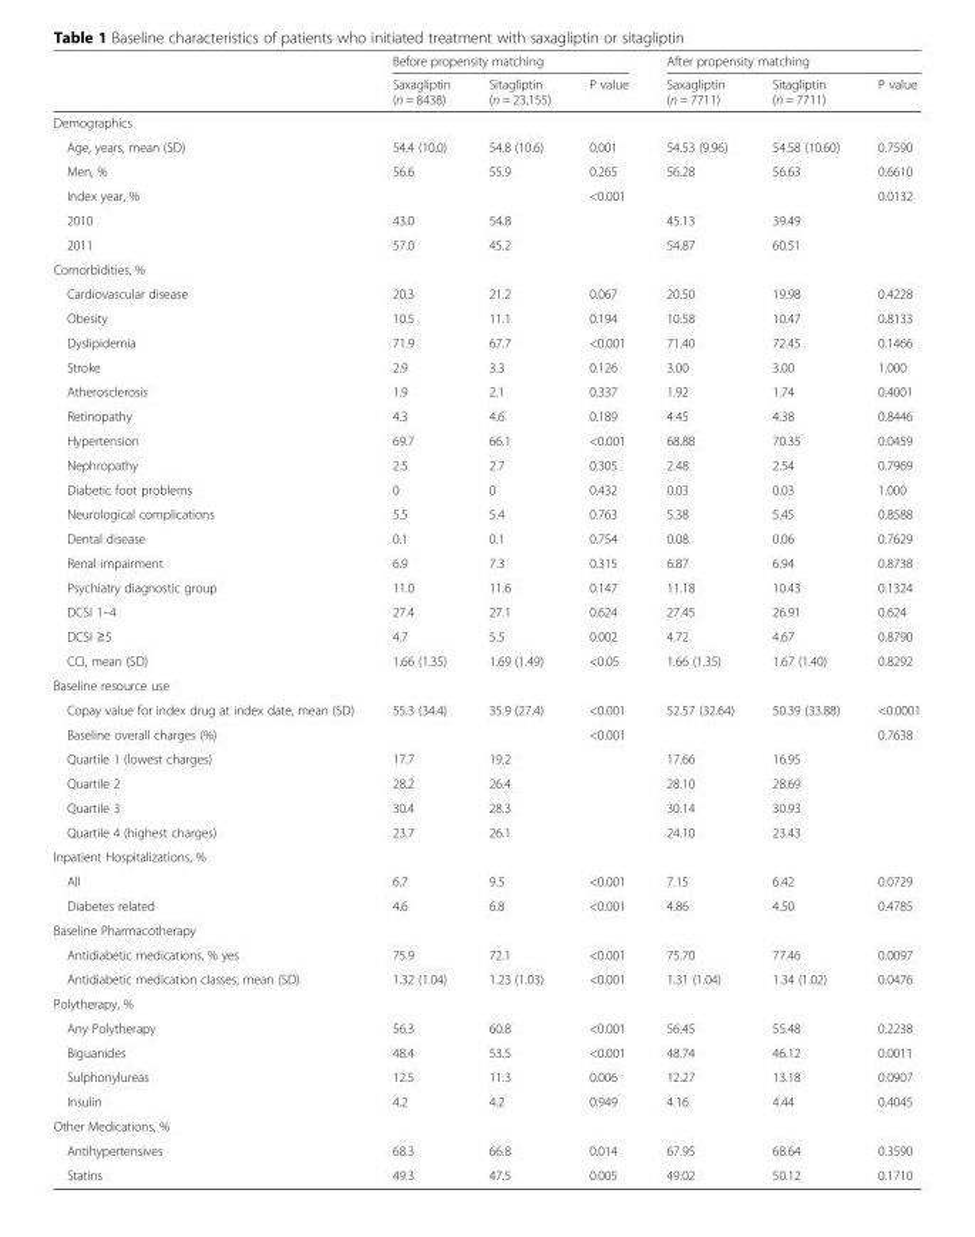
<table><thead><tr><td rowspan="2"></td><td colspan="3">Before propensity matching</td><td colspan="3">After propensity matching</td></tr><tr><td>Saxagliptin (n = 8438)</td><td>Sitagliptin (n = 23,155)</td><td>P value</td><td>Saxagliptin (n = 7711)</td><td>Sitagliptin (n = 7711)</td><td>P value</td></tr></thead><tbody><tr><td colspan="7">Demographics</td></tr><tr><td>Age, years, mean (SD)</td><td>54.4 (10.0)</td><td>54.8 (10.6)</td><td>0.001</td><td>54.53 (9.96)</td><td>54.58 (10.60)</td><td>0.7590</td></tr><tr><td>Men, %</td><td>56.6</td><td>55.9</td><td>0.265</td><td>56.28</td><td>56.63</td><td>0.6610</td></tr><tr><td>Index year, %</td><td></td><td></td><td>&lt;0.001</td><td></td><td></td><td rowspan="3">0.0132</td></tr><tr><td>2010</td><td>43.0</td><td>54.8</td><td></td><td>45.13</td><td>39.49</td></tr><tr><td>2011</td><td>57.0</td><td>45.2</td><td></td><td>54.87</td><td>60.51</td></tr><tr><td colspan="7">Comorbidities, %</td></tr><tr><td>Cardiovascular disease</td><td>20.3</td><td>21.2</td><td>0.067</td><td>20.50</td><td>19.98</td><td>0.4228</td></tr><tr><td>Obesity</td><td>10.5</td><td>11.1</td><td>0.194</td><td>10.58</td><td>10.47</td><td>0.8133</td></tr><tr><td>Dyslipidemia</td><td>71.9</td><td>67.7</td><td>&lt;0.001</td><td>71.40</td><td>72.45</td><td>0.1466</td></tr><tr><td>Stroke</td><td>2.9</td><td>3.3</td><td>0.126</td><td>3.00</td><td>3.00</td><td>1.000</td></tr><tr><td>Atherosclerosis</td><td>1.9</td><td>2.1</td><td>0.337</td><td>1.92</td><td>1.74</td><td>0.4001</td></tr><tr><td>Retinopathy</td><td>4.3</td><td>4.6</td><td>0.189</td><td>4.45</td><td>4.38</td><td>0.8446</td></tr><tr><td>Hypertension</td><td>69.7</td><td>66.1</td><td>&lt;0.001</td><td>68.88</td><td>70.35</td><td>0.0459</td></tr><tr><td>Nephropathy</td><td>2.5</td><td>2.7</td><td>0.305</td><td>2.48</td><td>2.54</td><td>0.7969</td></tr><tr><td>Diabetic foot problems</td><td>0</td><td>0</td><td>0.432</td><td>0.03</td><td>0.03</td><td>1.000</td></tr><tr><td>Neurological complications</td><td>5.5</td><td>5.4</td><td>0.763</td><td>5.38</td><td>5.45</td><td>0.8588</td></tr><tr><td>Dental disease</td><td>0.1</td><td>0.1</td><td>0.754</td><td>0.08</td><td>0.06</td><td>0.7629</td></tr><tr><td>Renal impairment</td><td>6.9</td><td>7.3</td><td>0.315</td><td>6.87</td><td>6.94</td><td>0.8738</td></tr><tr><td>Psychiatry diagnostic group</td><td>11.0</td><td>11.6</td><td>0.147</td><td>11.18</td><td>10.43</td><td>0.1324</td></tr><tr><td>DCSI 1–4</td><td>27.4</td><td>27.1</td><td>0.624</td><td>27.45</td><td>26.91</td><td>0.624</td></tr><tr><td>DCSI ≥5</td><td>4.7</td><td>5.5</td><td>0.002</td><td>4.72</td><td>4.67</td><td>0.8790</td></tr><tr><td>CCI, mean (SD)</td><td>1.66 (1.35)</td><td>1.69 (1.49)</td><td>&lt;0.05</td><td>1.66 (1.35)</td><td>1.67 (1.40)</td><td>0.8292</td></tr><tr><td colspan="7">Baseline resource use</td></tr><tr><td>Copay value for index drug at index date, mean (SD)</td><td>55.3 (34.4)</td><td>35.9 (27.4)</td><td>&lt;0.001</td><td>52.57 (32.64)</td><td>50.39 (33.88)</td><td>&lt;0.0001</td></tr><tr><td>Baseline overall charges (%)</td><td></td><td></td><td>&lt;0.001</td><td></td><td></td><td>0.7638</td></tr><tr><td>Quartile 1 (lowest charges)</td><td>17.7</td><td>19.2</td><td></td><td>17.66</td><td>16.95</td><td></td></tr><tr><td>Quartile 2</td><td>28.2</td><td>26.4</td><td></td><td>28.10</td><td>28.69</td><td></td></tr><tr><td>Quartile 3</td><td>30.4</td><td>28.3</td><td></td><td>30.14</td><td>30.93</td><td></td></tr><tr><td>Quartile 4 (highest charges)</td><td>23.7</td><td>26.1</td><td></td><td>24.10</td><td>23.43</td><td></td></tr><tr><td colspan="7">Inpatient Hospitalizations, %</td></tr><tr><td>All</td><td>6.7</td><td>9.5</td><td>&lt;0.001</td><td>7.15</td><td>6.42</td><td>0.0729</td></tr><tr><td>Diabetes related</td><td>4.6</td><td>6.8</td><td>&lt;0.001</td><td>4.86</td><td>4.50</td><td>0.4785</td></tr><tr><td colspan="7">Baseline Pharmacotherapy</td></tr><tr><td>Antidiabetic medications, % yes</td><td>75.9</td><td>72.1</td><td>&lt;0.001</td><td>75.70</td><td>77.46</td><td>0.0097</td></tr><tr><td>Antidiabetic medication classes, mean (SD)</td><td>1.32 (1.04)</td><td>1.23 (1.03)</td><td>&lt;0.001</td><td>1.31 (1.04)</td><td>1.34 (1.02)</td><td>0.0476</td></tr><tr><td colspan="7">Polytherapy, %</td></tr><tr><td>Any Polytherapy</td><td>56.3</td><td>60.8</td><td>&lt;0.001</td><td>56.45</td><td>55.48</td><td>0.2238</td></tr><tr><td>Biguanides</td><td>48.4</td><td>53.5</td><td>&lt;0.001</td><td>48.74</td><td>46.12</td><td>0.0011</td></tr><tr><td>Sulphonylureas</td><td>12.5</td><td>11.3</td><td>0.006</td><td>12.27</td><td>13.18</td><td>0.0907</td></tr><tr><td>Insulin</td><td>4.2</td><td>4.2</td><td>0.949</td><td>4.16</td><td>4.44</td><td>0.4045</td></tr><tr><td colspan="7">Other Medications, %</td></tr><tr><td>Antihypertensives</td><td>68.3</td><td>66.8</td><td>0.014</td><td>67.95</td><td>68.64</td><td>0.3590</td></tr><tr><td>Statins</td><td>49.3</td><td>47.5</td><td>0.005</td><td>49.02</td><td>50.12</td><td>0.1710</td></tr></tbody></table>